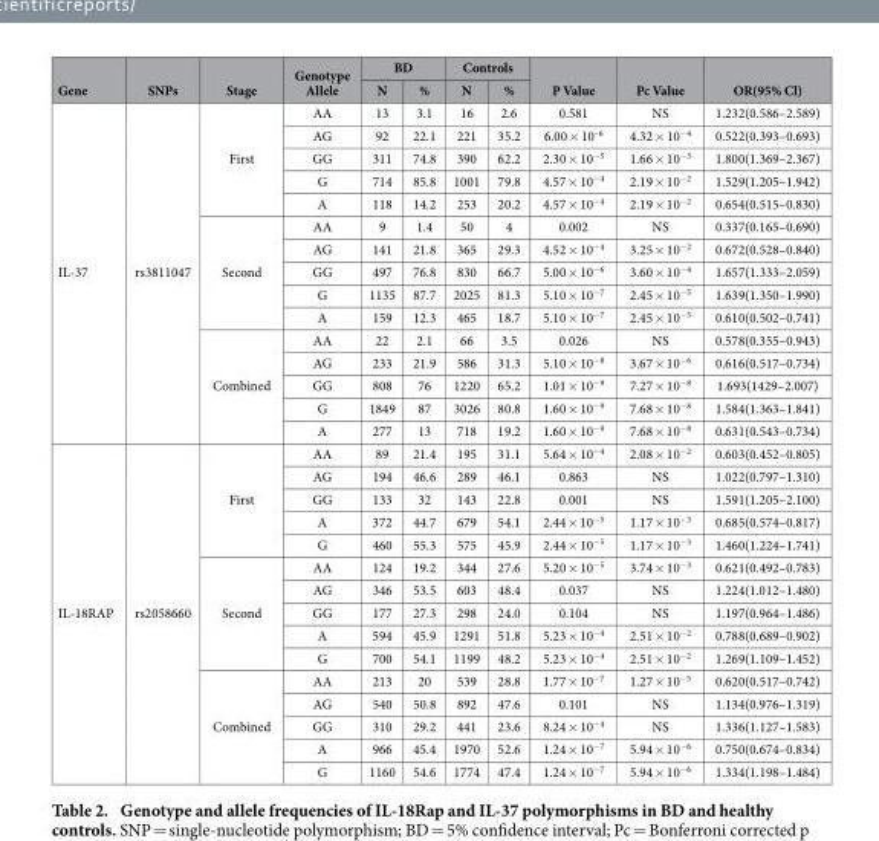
<table><thead><tr><td rowspan="2">Gene</td><td rowspan="2">SNPs</td><td rowspan="2">Stage</td><td rowspan="2">Genotype Allele</td><td colspan="2">BD</td><td colspan="2">Controls</td><td rowspan="2">P Value</td><td rowspan="2">Pc Value</td><td rowspan="2">OR(95% Cl)</td></tr><tr><td>N</td><td>%</td><td>N</td><td>%</td></tr></thead><tbody><tr><td rowspan="15">IL-37</td><td rowspan="15">rs3811047</td><td rowspan="5">First</td><td>AA</td><td>13</td><td>3.1</td><td>16</td><td>2.6</td><td>0.581</td><td>NS</td><td>1.232(0.586–2.589)</td></tr><tr><td>AG</td><td>92</td><td>22.1</td><td>221</td><td>35.2</td><td>6.00 × 10<sup>–6</sup></td><td>4.32 × 10<sup>−4</sup></td><td>0.522(0.393–0.693)</td></tr><tr><td>GG</td><td>311</td><td>74.8</td><td>390</td><td>62.2</td><td>2.30 × 10<sup>−5</sup></td><td>1.66 × 10<sup>−3</sup></td><td>1.800(1.369–2.367)</td></tr><tr><td>G</td><td>714</td><td>85.8</td><td>1001</td><td>79.8</td><td>4.57 × 10<sup>−4</sup></td><td>2.19 × 10<sup>−2</sup></td><td>1.529(1.205–1.942)</td></tr><tr><td>A</td><td>118</td><td>14.2</td><td>253</td><td>20.2</td><td>4.57 × 10<sup>−4</sup></td><td>2.19 × 10<sup>−2</sup></td><td>0.654(0.515–0.830)</td></tr><tr><td rowspan="5">Second</td><td>AA</td><td>9</td><td>1.4</td><td>50</td><td>4</td><td>0.002</td><td>NS</td><td>0.337(0.165–0.690)</td></tr><tr><td>AG</td><td>141</td><td>21.8</td><td>365</td><td>29.3</td><td>4.52 × 10<sup>−4</sup></td><td>3.25 × 10<sup>−2</sup></td><td>0.672(0.528–0.840)</td></tr><tr><td>GG</td><td>497</td><td>76.8</td><td>830</td><td>66.7</td><td>5.00 × 10<sup>−6</sup></td><td>3.60 × 10<sup>−4</sup></td><td>1.657(1.333–2.059)</td></tr><tr><td>G</td><td>1135</td><td>87.7</td><td>2025</td><td>81.3</td><td>5.10 × 10<sup>−7</sup></td><td>2.45 × 10<sup>−5</sup></td><td>1.639(1.350–1.990)</td></tr><tr><td>A</td><td>159</td><td>12.3</td><td>465</td><td>18.7</td><td>5.10 × 10<sup>−7</sup></td><td>2.45 × 10<sup>−5</sup></td><td>0.610(0.502–0.741)</td></tr><tr><td rowspan="5">Combined</td><td>AA</td><td>22</td><td>2.1</td><td>66</td><td>3.5</td><td>0.026</td><td>NS</td><td>0.578(0.355–0.943)</td></tr><tr><td>AG</td><td>233</td><td>21.9</td><td>586</td><td>31.3</td><td>5.10 × 10<sup>−8</sup></td><td>3.67 × 10<sup>−6</sup></td><td>0.616(0.517–0.734)</td></tr><tr><td>GG</td><td>808</td><td>76</td><td>1220</td><td>65.2</td><td>1.01 × 10<sup>−9</sup></td><td>7.27 × 10<sup>−8</sup></td><td>1.693(1429–2.007)</td></tr><tr><td>G</td><td>1849</td><td>87</td><td>3026</td><td>80.8</td><td>1.60 × 10<sup>−9</sup></td><td>7.68 × 10<sup>−8</sup></td><td>1.584(1.363–1.841)</td></tr><tr><td>A</td><td>277</td><td>13</td><td>718</td><td>19.2</td><td>1.60 × 10<sup>−9</sup></td><td>7.68 × 10<sup>−8</sup></td><td>0.631(0.543–0.734)</td></tr><tr><td rowspan="15">IL-18RAP</td><td rowspan="15">rs2058660</td><td rowspan="5">First</td><td>AA</td><td>89</td><td>21.4</td><td>195</td><td>31.1</td><td>5.64 × 10<sup>−4</sup></td><td>2.08 × 10<sup>−2</sup></td><td>0.603(0.452–0.805)</td></tr><tr><td>AG</td><td>194</td><td>46.6</td><td>289</td><td>46.1</td><td>0.863</td><td>NS</td><td>1.022(0.797–1.310)</td></tr><tr><td>GG</td><td>133</td><td>32</td><td>143</td><td>22.8</td><td>0.001</td><td>NS</td><td>1.591(1.205–2.100)</td></tr><tr><td>A</td><td>372</td><td>44.7</td><td>679</td><td>54.1</td><td>2.44 × 10<sup>−5</sup></td><td>1.17 × 10<sup>−3</sup></td><td>0.685(0.574–0.817)</td></tr><tr><td>G</td><td>460</td><td>55.3</td><td>575</td><td>45.9</td><td>2.44 × 10<sup>−5</sup></td><td>1.17 × 10<sup>−3</sup></td><td>1.460(1.224–1.741)</td></tr><tr><td rowspan="5">Second</td><td>AA</td><td>124</td><td>19.2</td><td>344</td><td>27.6</td><td>5.20 × 10<sup>−5</sup></td><td>3.74 × 10<sup>−3</sup></td><td>0.621(0.492–0.783)</td></tr><tr><td>AG</td><td>346</td><td>53.5</td><td>603</td><td>48.4</td><td>0.037</td><td>NS</td><td>1.224(1.012–1.480)</td></tr><tr><td>GG</td><td>177</td><td>27.3</td><td>298</td><td>24.0</td><td>0.104</td><td>NS</td><td>1.197(0.964–1.486)</td></tr><tr><td>A</td><td>594</td><td>45.9</td><td>1291</td><td>51.8</td><td>5.23 × 10<sup>−4</sup></td><td>2.51 × 10<sup>−2</sup></td><td>0.788(0.689–0.902)</td></tr><tr><td>G</td><td>700</td><td>54.1</td><td>1199</td><td>48.2</td><td>5.23 × 10<sup>−4</sup></td><td>2.51 × 10<sup>−2</sup></td><td>1.269(1.109–1.452)</td></tr><tr><td rowspan="5">Combined</td><td>AA</td><td>213</td><td>20</td><td>539</td><td>28.8</td><td>1.77 × 10<sup>−7</sup></td><td>1.27 × 10<sup>−5</sup></td><td>0.620(0.517–0.742)</td></tr><tr><td>AG</td><td>540</td><td>50.8</td><td>892</td><td>47.6</td><td>0.101</td><td>NS</td><td>1.134(0.976–1.319)</td></tr><tr><td>GG</td><td>310</td><td>29.2</td><td>441</td><td>23.6</td><td>8.24 × 10<sup>−4</sup></td><td>NS</td><td>1.336(1.127–1.583)</td></tr><tr><td>A</td><td>966</td><td>45.4</td><td>1970</td><td>52.6</td><td>1.24 × 10<sup>−7</sup></td><td>5.94 × 10<sup>−6</sup></td><td>0.750(0.674–0.834)</td></tr><tr><td>G</td><td>1160</td><td>54.6</td><td>1774</td><td>47.4</td><td>1.24 × 10<sup>−7</sup></td><td>5.94 × 10<sup>−6</sup></td><td>1.334(1.198–1.484)</td></tr></tbody></table>